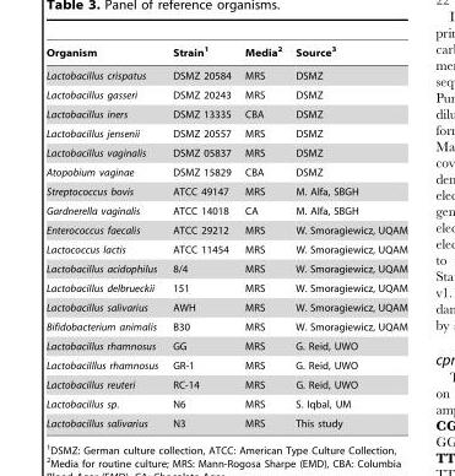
<table><thead><tr><td>Organism</td><td>Strain<sup>1</sup></td><td>Media<sup>2</sup></td><td>Source<sup>3</sup></td></tr></thead><tbody><tr><td>Lactobacillus crispatus</td><td>DSMZ 20584</td><td>MRS</td><td>DSMZ</td></tr><tr><td>Lactobacillus gasseri</td><td>DSMZ 20243</td><td>MRS</td><td>DSMZ</td></tr><tr><td>Lactobacillus iners</td><td>DSMZ 13335</td><td>CBA</td><td>DSMZ</td></tr><tr><td>Lactobacillus jensenii</td><td>DSMZ 20557</td><td>MRS</td><td>DSMZ</td></tr><tr><td>Lactobacillus vaginalis</td><td>DSMZ 05837</td><td>MRS</td><td>DSMZ</td></tr><tr><td>Atopobium vaginae</td><td>DSMZ 15829</td><td>CBA</td><td>DSMZ</td></tr><tr><td>Streptococcus bovis</td><td>ATCC 49147</td><td>MRS</td><td>M. Alfa, SBGH</td></tr><tr><td>Gardnerella vaginalis</td><td>ATCC 14018</td><td>CA</td><td>M. Alfa, SBGH</td></tr><tr><td>Enterococcus faecalis</td><td>ATCC 29212</td><td>MRS</td><td>W. Smoragiewicz, UQAM</td></tr><tr><td>Lactococcus lactis</td><td>ATCC 11454</td><td>MRS</td><td>W. Smoragiewicz, UQAM</td></tr><tr><td>Lactobacillus acidophilus</td><td>8/4</td><td>MRS</td><td>W. Smoragiewicz, UQAM</td></tr><tr><td>Lactobacillus delbrueckii</td><td>151</td><td>MRS</td><td>W. Smoragiewicz, UQAM</td></tr><tr><td>Lactobacillus salivarius</td><td>AWH</td><td>MRS</td><td>W. Smoragiewicz, UQAM</td></tr><tr><td>Bifidobacterium animalis</td><td>B30</td><td>MRS</td><td>W. Smoragiewicz, UQAM</td></tr><tr><td>Lactobacillus rhamnosus</td><td>GG</td><td>MRS</td><td>G. Reid, UWO</td></tr><tr><td>Lactobacilllus rhamnosus</td><td>GR-1</td><td>MRS</td><td>G. Reid, UWO</td></tr><tr><td>Lactobacillus reuteri</td><td>RC-14</td><td>MRS</td><td>G. Reid, UWO</td></tr><tr><td>Lactobacillus sp.</td><td>N6</td><td>MRS</td><td>S. Iqbal, UM</td></tr><tr><td>Lactobacillus salivarius</td><td>N3</td><td>MRS</td><td>This study</td></tr></tbody></table>